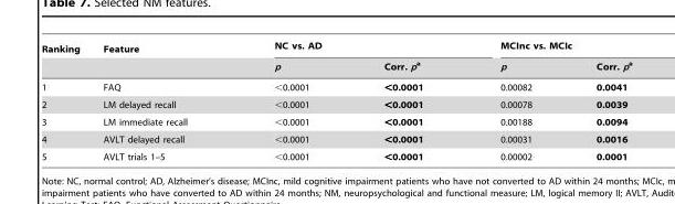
<table><thead><tr><td rowspan="2">Ranking</td><td rowspan="2">Feature</td><td colspan="2">NC vs. AD</td><td colspan="2">MCInc vs. MCIc</td></tr><tr><td>p</td><td>Corr. pa</td><td>p</td><td>Corr. pa</td></tr></thead><tbody><tr><td>1</td><td>FAQ</td><td>&lt;0.0001</td><td>&lt;0.0001</td><td>0.00082</td><td>0.0041</td></tr><tr><td>2</td><td>LM delayed recall</td><td>&lt;0.0001</td><td>&lt;0.0001</td><td>0.00078</td><td>0.0039</td></tr><tr><td>3</td><td>LM immediate recall</td><td>&lt;0.0001</td><td>&lt;0.0001</td><td>0.00188</td><td>0.0094</td></tr><tr><td>4</td><td>AVLT delayed recall</td><td>&lt;0.0001</td><td>&lt;0.0001</td><td>0.00031</td><td>0.0016</td></tr><tr><td>5</td><td>AVLT trials 1–5</td><td>&lt;0.0001</td><td>&lt;0.0001</td><td>0.00002</td><td>0.0001</td></tr></tbody></table>